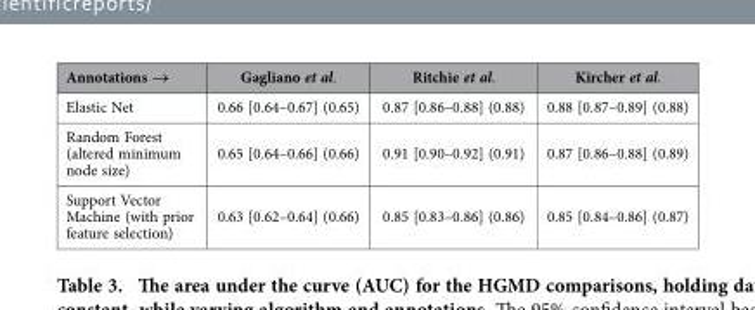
<table><thead><tr><td>Annotations →</td><td>Gagliano et al.</td><td>Ritchie et al.</td><td>Kircher et al.</td></tr></thead><tbody><tr><td>Elastic Net</td><td>0.66 [0.64–0.67] (0.65)</td><td>0.87 [0.86–0.88] (0.88)</td><td>0.88 [0.87–0.89] (0.88)</td></tr><tr><td>Random Forest (altered minimum node size)</td><td>0.65 [0.64–0.66] (0.66)</td><td>0.91 [0.90–0.92] (0.91)</td><td>0.87 [0.86–0.88] (0.89)</td></tr><tr><td>Support Vector Machine (with prior feature selection)</td><td>0.63 [0.62–0.64] (0.66)</td><td>0.85 [0.83–0.86] (0.86)</td><td>0.85 [0.84–0.86] (0.87)</td></tr></tbody></table>